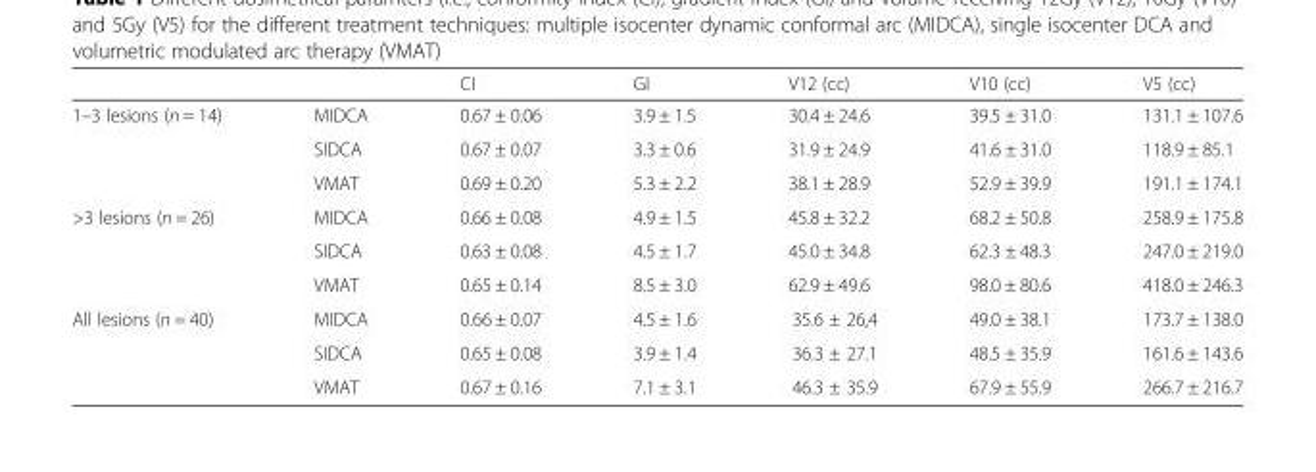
<table><thead><tr><td></td><td></td><td>CI</td><td>GI</td><td>V12 (cc)</td><td>V10 (cc)</td><td>V5 (cc)</td></tr></thead><tbody><tr><td rowspan="3">1–3 lesions (n = 14)</td><td>MIDCA</td><td>0.67 ± 0.06</td><td>3.9 ± 1.5</td><td>30.4 ± 24.6</td><td>39.5 ± 31.0</td><td>131.1 ± 107.6</td></tr><tr><td>SIDCA</td><td>0.67 ± 0.07</td><td>3.3 ± 0.6</td><td>31.9 ± 24.9</td><td>41.6 ± 31.0</td><td>118.9 ± 85.1</td></tr><tr><td>VMAT</td><td>0.69 ± 0.20</td><td>5.3 ± 2.2</td><td>38.1 ± 28.9</td><td>52.9 ± 39.9</td><td>191.1 ± 174.1</td></tr><tr><td rowspan="3">&gt;3 lesions (n = 26)</td><td>MIDCA</td><td>0.66 ± 0.08</td><td>4.9 ± 1.5</td><td>45.8 ± 32.2</td><td>68.2 ± 50.8</td><td>258.9 ± 175.8</td></tr><tr><td>SIDCA</td><td>0.63 ± 0.08</td><td>4.5 ± 1.7</td><td>45.0 ± 34.8</td><td>62.3 ± 48.3</td><td>247.0 ± 219.0</td></tr><tr><td>VMAT</td><td>0.65 ± 0.14</td><td>8.5 ± 3.0</td><td>62.9 ± 49.6</td><td>98.0 ± 80.6</td><td>418.0 ± 246.3</td></tr><tr><td rowspan="3">All lesions (n = 40)</td><td>MIDCA</td><td>0.66 ± 0.07</td><td>4.5 ± 1.6</td><td>35.6 ± 26,4</td><td>49.0 ± 38.1</td><td>173.7 ± 138.0</td></tr><tr><td>SIDCA</td><td>0.65 ± 0.08</td><td>3.9 ± 1.4</td><td>36.3 ± 27.1</td><td>48.5 ± 35.9</td><td>161.6 ± 143.6</td></tr><tr><td>VMAT</td><td>0.67 ± 0.16</td><td>7.1 ± 3.1</td><td>46.3 ± 35.9</td><td>67.9 ± 55.9</td><td>266.7 ± 216.7</td></tr></tbody></table>